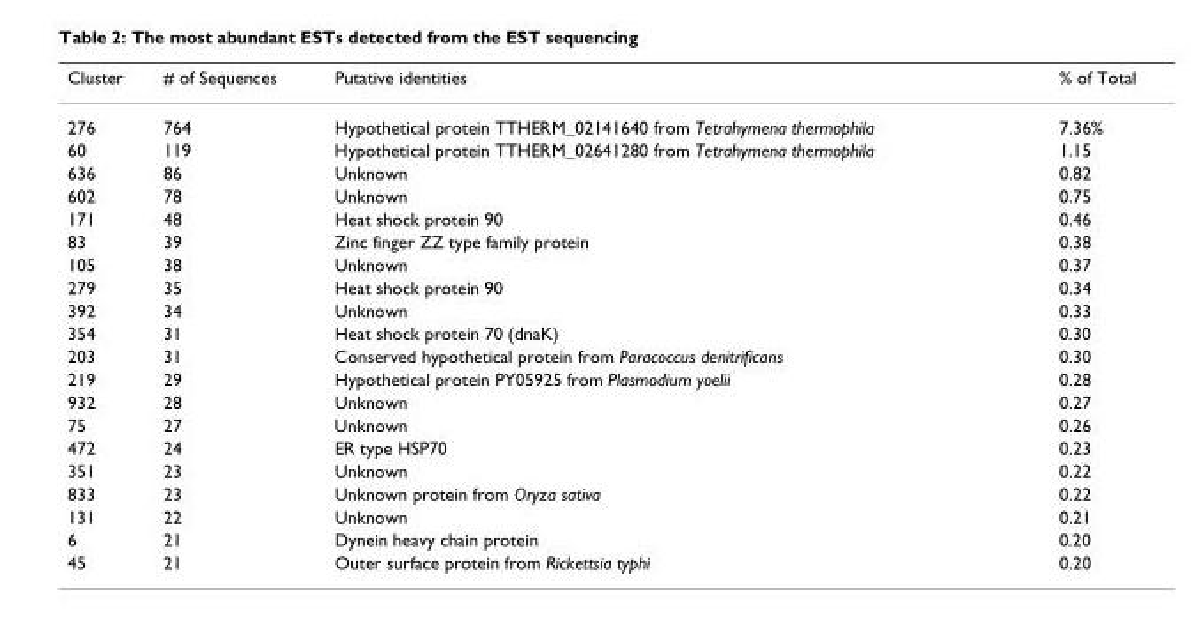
<table><thead><tr><td>Cluster</td><td># of Sequences</td><td>Putative identities</td><td>% of Total</td></tr></thead><tbody><tr><td>276</td><td>764</td><td>Hypothetical protein TTHERM_02141640 from Tetrahymena thermophila</td><td>7.36%</td></tr><tr><td>60</td><td>119</td><td>Hypothetical protein TTHERM_02641280 from Tetrahymena thermophila</td><td>1.15</td></tr><tr><td>636</td><td>86</td><td>Unknown</td><td>0.82</td></tr><tr><td>602</td><td>78</td><td>Unknown</td><td>0.75</td></tr><tr><td>171</td><td>48</td><td>Heat shock protein 90</td><td>0.46</td></tr><tr><td>83</td><td>39</td><td>Zinc finger ZZ type family protein</td><td>0.38</td></tr><tr><td>105</td><td>38</td><td>Unknown</td><td>0.37</td></tr><tr><td>279</td><td>35</td><td>Heat shock protein 90</td><td>0.34</td></tr><tr><td>392</td><td>34</td><td>Unknown</td><td>0.33</td></tr><tr><td>354</td><td>31</td><td>Heat shock protein 70 (dnaK)</td><td>0.30</td></tr><tr><td>203</td><td>31</td><td>Conserved hypothetical protein from Paracoccus denitrificans</td><td>0.30</td></tr><tr><td>219</td><td>29</td><td>Hypothetical protein PY05925 from Plasmodium yoelii</td><td>0.28</td></tr><tr><td>932</td><td>28</td><td>Unknown</td><td>0.27</td></tr><tr><td>75</td><td>27</td><td>Unknown</td><td>0.26</td></tr><tr><td>472</td><td>24</td><td>ER type HSP70</td><td>0.23</td></tr><tr><td>351</td><td>23</td><td>Unknown</td><td>0.22</td></tr><tr><td>833</td><td>23</td><td>Unknown protein from Oryza sativa</td><td>0.22</td></tr><tr><td>131</td><td>22</td><td>Unknown</td><td>0.21</td></tr><tr><td>6</td><td>21</td><td>Dynein heavy chain protein</td><td>0.20</td></tr><tr><td>45</td><td>21</td><td>Outer surface protein from Rickettsia typhi</td><td>0.20</td></tr></tbody></table>